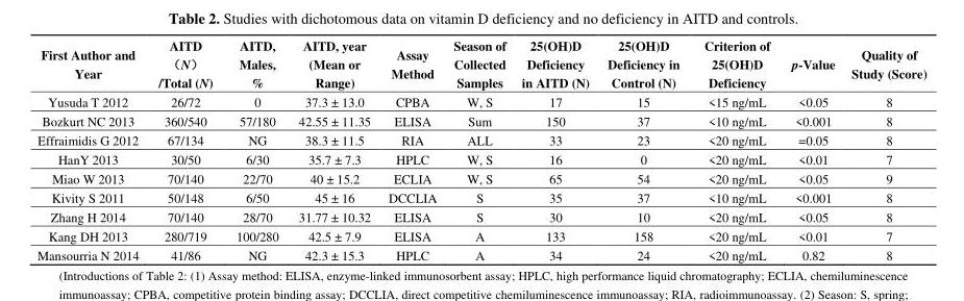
<table><thead><tr><td>First Author and Year</td><td>AITD （N） /Total (N)</td><td>AITD, Males, %</td><td>AITD, year (Mean or Range)</td><td>Assay Method</td><td>Season of Collected Samples</td><td>25(OH)D Deficiency in AITD (N)</td><td>25(OH)D Deficiency in Control (N)</td><td>Criterion of 25(OH)D Deficiency</td><td>p-Value</td><td>Quality of Study (Score)</td></tr></thead><tbody><tr><td>Yusuda T 2012</td><td>26/72</td><td>0</td><td>37.3 ± 13.0</td><td>CPBA</td><td>W, S</td><td>17</td><td>15</td><td>&lt;15 ng/mL</td><td>&lt;0.05</td><td>8</td></tr><tr><td>Bozkurt NC 2013</td><td>360/540</td><td>57/180</td><td>42.55 ± 11.35</td><td>ELISA</td><td>Sum</td><td>150</td><td>37</td><td>&lt;10 ng/mL</td><td>&lt;0.001</td><td>8</td></tr><tr><td>Effraimidis G 2012</td><td>67/134</td><td>NG</td><td>38.3 ± 11.5</td><td>RIA</td><td>ALL</td><td>33</td><td>23</td><td>&lt;20 ng/mL</td><td>=0.05</td><td>8</td></tr><tr><td>HanY 2013</td><td>30/50</td><td>6/30</td><td>35.7 ± 7.3</td><td>HPLC</td><td>W, S</td><td>16</td><td>0</td><td>&lt;20 ng/mL</td><td>&lt;0.01</td><td>7</td></tr><tr><td>Miao W 2013</td><td>70/140</td><td>22/70</td><td>40 ± 15.2</td><td>ECLIA</td><td>W, S</td><td>65</td><td>54</td><td>&lt;20 ng/mL</td><td>&lt;0.05</td><td>9</td></tr><tr><td>Kivity S 2011</td><td>50/148</td><td>6/50</td><td>45 ± 16</td><td>DCCLIA</td><td>S</td><td>35</td><td>37</td><td>&lt;10 ng/mL</td><td>&lt;0.001</td><td>8</td></tr><tr><td>Zhang H 2014</td><td>70/140</td><td>28/70</td><td>31.77 ± 10.32</td><td>ELISA</td><td>S</td><td>30</td><td>10</td><td>&lt;20 ng/mL</td><td>&lt;0.05</td><td>8</td></tr><tr><td>Kang DH 2013</td><td>280/719</td><td>100/280</td><td>42.5 ± 7.9</td><td>ELISA</td><td>A</td><td>133</td><td>158</td><td>&lt;20 ng/mL</td><td>&lt;0.01</td><td>7</td></tr><tr><td>Mansourria N 2014</td><td>41/86</td><td>NG</td><td>42.3 ± 15.3</td><td>HPLC</td><td>A</td><td>34</td><td>24</td><td>&lt;20 ng/mL</td><td>0.82</td><td>8</td></tr></tbody></table>